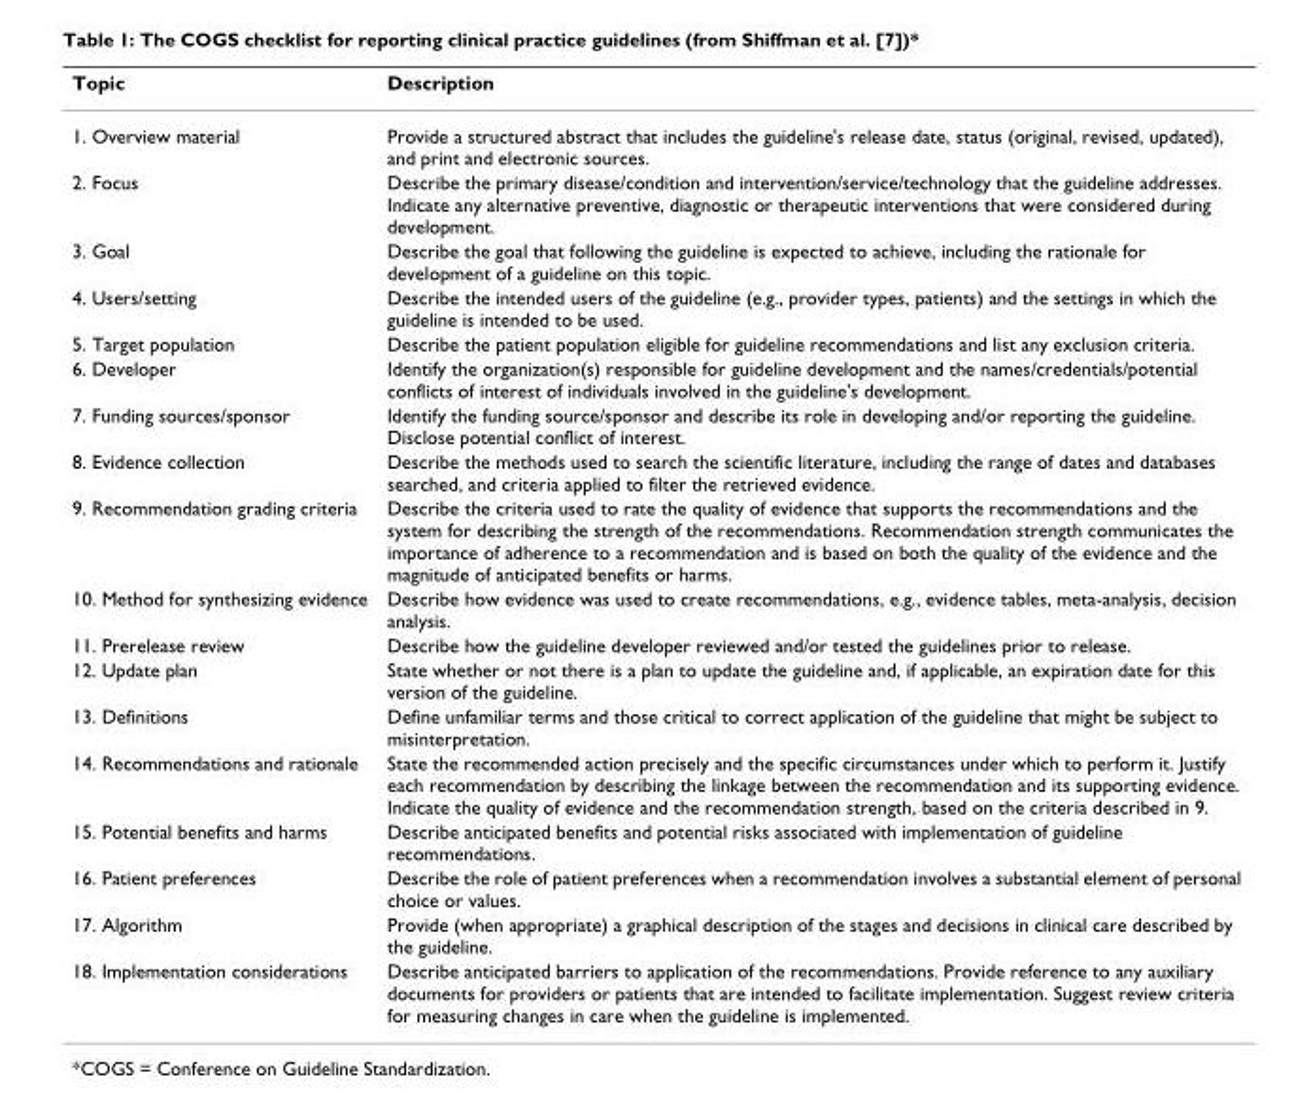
<table><thead><tr><td>Topic</td><td>Description</td></tr></thead><tbody><tr><td>1. Overview material</td><td>Provide a structured abstract that includes the guideline&#x27;s release date, status (original, revised, updated), and print and electronic sources.</td></tr><tr><td>2. Focus</td><td>Describe the primary disease/condition and intervention/service/technology that the guideline addresses. Indicate any alternative preventive, diagnostic or therapeutic interventions that were considered during development.</td></tr><tr><td>3. Goal</td><td>Describe the goal that following the guideline is expected to achieve, including the rationale for development of a guideline on this topic.</td></tr><tr><td>4. Users/setting</td><td>Describe the intended users of the guideline (e.g., provider types, patients) and the settings in which the guideline is intended to be used.</td></tr><tr><td>5. Target population</td><td>Describe the patient population eligible for guideline recommendations and list any exclusion criteria.</td></tr><tr><td>6. Developer</td><td>Identify the organization(s) responsible for guideline development and the names/credentials/potential conflicts of interest of individuals involved in the guideline&#x27;s development.</td></tr><tr><td>7. Funding sources/sponsor</td><td>Identify the funding source/sponsor and describe its role in developing and/or reporting the guideline. Disclose potential conflict of interest.</td></tr><tr><td>8. Evidence collection</td><td>Describe the methods used to search the scientific literature, including the range of dates and databases searched, and criteria applied to filter the retrieved evidence.</td></tr><tr><td>9. Recommendation grading criteria</td><td>Describe the criteria used to rate the quality of evidence that supports the recommendations and the system for describing the strength of the recommendations. Recommendation strength communicates the importance of adherence to a recommendation and is based on both the quality of the evidence and the magnitude of anticipated benefits or harms.</td></tr><tr><td>10. Method for synthesizing evidence</td><td>Describe how evidence was used to create recommendations, e.g., evidence tables, meta-analysis, decision analysis.</td></tr><tr><td>11. Prerelease review</td><td>Describe how the guideline developer reviewed and/or tested the guidelines prior to release.</td></tr><tr><td>12. Update plan</td><td>State whether or not there is a plan to update the guideline and, if applicable, an expiration date for this version of the guideline.</td></tr><tr><td>13. Definitions</td><td>Define unfamiliar terms and those critical to correct application of the guideline that might be subject to misinterpretation.</td></tr><tr><td>14. Recommendations and rationale</td><td>State the recommended action precisely and the specific circumstances under which to perform it. Justify each recommendation by describing the linkage between the recommendation and its supporting evidence. Indicate the quality of evidence and the recommendation strength, based on the criteria described in 9.</td></tr><tr><td>15. Potential benefits and harms</td><td>Describe anticipated benefits and potential risks associated with implementation of guideline recommendations.</td></tr><tr><td>16. Patient preferences</td><td>Describe the role of patient preferences when a recommendation involves a substantial element of personal choice or values.</td></tr><tr><td>17. Algorithm</td><td>Provide (when appropriate) a graphical description of the stages and decisions in clinical care described by the guideline.</td></tr><tr><td>18. Implementation considerations</td><td>Describe anticipated barriers to application of the recommendations. Provide reference to any auxiliary documents for providers or patients that are intended to facilitate implementation. Suggest review criteria for measuring changes in care when the guideline is implemented.</td></tr></tbody></table>